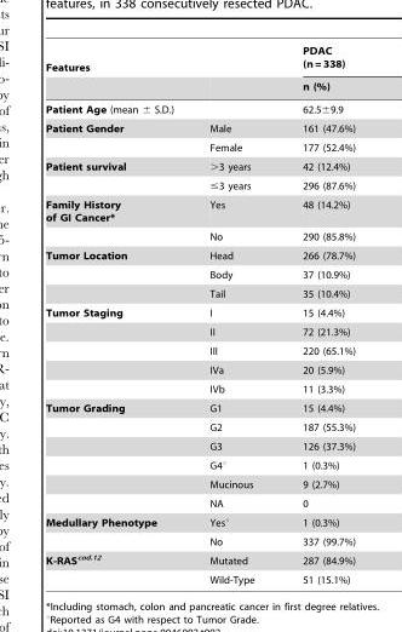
<table><thead><tr><td colspan="2">Features</td><td rowspan="2">PDAC (n = 338) n (%)</td></tr><tr><td></td><td></td></tr></thead><tbody><tr><td>Patient Age (mean ± S.D.)</td><td></td><td>62.5±9.9</td></tr><tr><td rowspan="2">Patient Gender</td><td>Male</td><td>161 (47.6%)</td></tr><tr><td>Female</td><td>177 (52.4%)</td></tr><tr><td rowspan="2">Patient survival</td><td>&gt;3 years</td><td>42 (12.4%)</td></tr><tr><td>≤3 years</td><td>296 (87.6%)</td></tr><tr><td rowspan="2">Family History of GI Cancer*</td><td>Yes</td><td>48 (14.2%)</td></tr><tr><td>No</td><td>290 (85.8%)</td></tr><tr><td rowspan="3">Tumor Location</td><td>Head</td><td>266 (78.7%)</td></tr><tr><td>Body</td><td>37 (10.9%)</td></tr><tr><td>Tail</td><td>35 (10.4%)</td></tr><tr><td rowspan="5">Tumor Staging</td><td>I</td><td>15 (4.4%)</td></tr><tr><td>II</td><td>72 (21.3%)</td></tr><tr><td>III</td><td>220 (65.1%)</td></tr><tr><td>IVa</td><td>20 (5.9%)</td></tr><tr><td>IVb</td><td>11 (3.3%)</td></tr><tr><td rowspan="6">Tumor Grading</td><td>G1</td><td>15 (4.4%)</td></tr><tr><td>G2</td><td>187 (55.3%)</td></tr><tr><td>G3</td><td>126 (37.3%)</td></tr><tr><td>G4°</td><td>1 (0.3%)</td></tr><tr><td>Mucinous</td><td>9 (2.7%)</td></tr><tr><td>NA</td><td>0</td></tr><tr><td rowspan="2">Medullary Phenotype</td><td>Yes°</td><td>1 (0.3%)</td></tr><tr><td>No</td><td>337 (99.7%)</td></tr><tr><td rowspan="2">K-RAS<sup>cod.12</sup></td><td>Mutated</td><td>287 (84.9%)</td></tr><tr><td>Wild-Type</td><td>51 (15.1%)</td></tr></tbody></table>